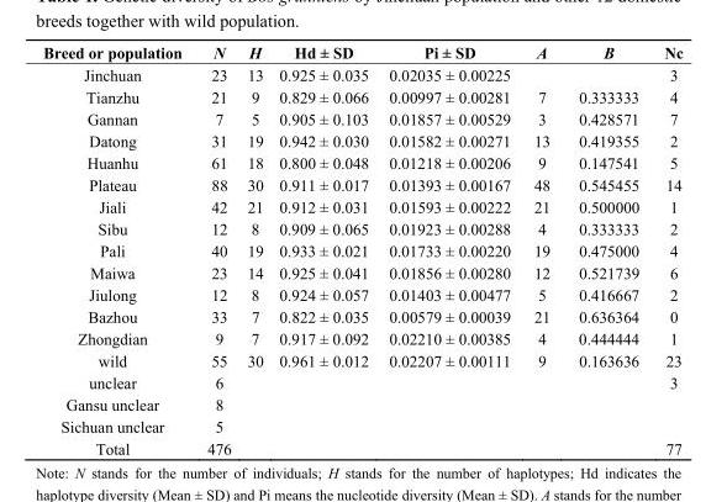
<table><thead><tr><td>Breed or population</td><td>N</td><td>H</td><td>Hd ± SD</td><td>Pi ± SD</td><td>A</td><td>B</td><td>Nc</td></tr></thead><tbody><tr><td>Jinchuan</td><td>23</td><td>13</td><td>0.925 ± 0.035</td><td>0.02035 ± 0.00225</td><td></td><td></td><td>3</td></tr><tr><td>Tianzhu</td><td>21</td><td>9</td><td>0.829 ± 0.066</td><td>0.00997 ± 0.00281</td><td>7</td><td>0.333333</td><td>4</td></tr><tr><td>Gannan</td><td>7</td><td>5</td><td>0.905 ± 0.103</td><td>0.01857 ± 0.00529</td><td>3</td><td>0.428571</td><td>7</td></tr><tr><td>Datong</td><td>31</td><td>19</td><td>0.942 ± 0.030</td><td>0.01582 ± 0.00271</td><td>13</td><td>0.419355</td><td>2</td></tr><tr><td>Huanhu</td><td>61</td><td>18</td><td>0.800 ± 0.048</td><td>0.01218 ± 0.00206</td><td>9</td><td>0.147541</td><td>5</td></tr><tr><td>Plateau</td><td>88</td><td>30</td><td>0.911 ± 0.017</td><td>0.01393 ± 0.00167</td><td>48</td><td>0.545455</td><td>14</td></tr><tr><td>Jiali</td><td>42</td><td>21</td><td>0.912 ± 0.031</td><td>0.01593 ± 0.00222</td><td>21</td><td>0.500000</td><td>1</td></tr><tr><td>Sibu</td><td>12</td><td>8</td><td>0.909 ± 0.065</td><td>0.01923 ± 0.00288</td><td>4</td><td>0.333333</td><td>2</td></tr><tr><td>Pali</td><td>40</td><td>19</td><td>0.933 ± 0.021</td><td>0.01733 ± 0.00220</td><td>19</td><td>0.475000</td><td>4</td></tr><tr><td>Maiwa</td><td>23</td><td>14</td><td>0.925 ± 0.041</td><td>0.01856 ± 0.00280</td><td>12</td><td>0.521739</td><td>6</td></tr><tr><td>Jiulong</td><td>12</td><td>8</td><td>0.924 ± 0.057</td><td>0.01403 ± 0.00477</td><td>5</td><td>0.416667</td><td>2</td></tr><tr><td>Bazhou</td><td>33</td><td>7</td><td>0.822 ± 0.035</td><td>0.00579 ± 0.00039</td><td>21</td><td>0.636364</td><td>0</td></tr><tr><td>Zhongdian</td><td>9</td><td>7</td><td>0.917 ± 0.092</td><td>0.02210 ± 0.00385</td><td>4</td><td>0.444444</td><td>1</td></tr><tr><td>wild</td><td>55</td><td>30</td><td>0.961 ± 0.012</td><td>0.02207 ± 0.00111</td><td>9</td><td>0.163636</td><td>23</td></tr><tr><td>unclear</td><td>6</td><td></td><td></td><td></td><td></td><td></td><td>3</td></tr><tr><td>Gansu unclear</td><td>8</td><td></td><td></td><td></td><td></td><td></td><td></td></tr><tr><td>Sichuan unclear</td><td>5</td><td></td><td></td><td></td><td></td><td></td><td></td></tr><tr><td>Total</td><td>476</td><td></td><td></td><td></td><td></td><td></td><td>77</td></tr></tbody></table>